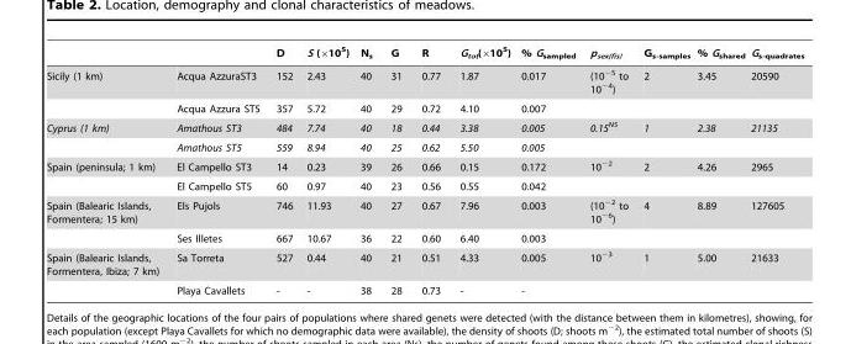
<table><thead><tr><td></td><td></td><td>D</td><td>S (×10<sup>5</sup>)</td><td>N<sub>s</sub></td><td>G</td><td>R</td><td>G<sub>tot</sub>(×10<sup>5</sup>)</td><td>% G<sub>sampled</sub></td><td>p<sub>sex(fis)</sub></td><td>G<sub>s-samples</sub></td><td>% G<sub>shared</sub></td><td>G<sub>s-quadrates</sub></td></tr></thead><tbody><tr><td rowspan="2">Sicily (1 km)</td><td>Acqua AzzuraST3</td><td>152</td><td>2.43</td><td>40</td><td>31</td><td>0.77</td><td>1.87</td><td>0.017</td><td>(10<sup>−5</sup> to 10<sup>−4</sup>)</td><td>2</td><td>3.45</td><td>20590</td></tr><tr><td>Acqua Azzura ST5</td><td>357</td><td>5.72</td><td>40</td><td>29</td><td>0.72</td><td>4.10</td><td>0.007</td><td></td><td></td><td></td><td></td></tr><tr><td rowspan="2">Cyprus (1 km)</td><td>Amathous ST3</td><td>484</td><td>7.74</td><td>40</td><td>18</td><td>0.44</td><td>3.38</td><td>0.005</td><td>0.15<sup>NS</sup></td><td>1</td><td>2.38</td><td>21135</td></tr><tr><td>Amathous ST5</td><td>559</td><td>8.94</td><td>40</td><td>25</td><td>0.62</td><td>5.50</td><td>0.005</td><td></td><td></td><td></td><td></td></tr><tr><td rowspan="2">Spain (peninsula; 1 km)</td><td>El Campello ST3</td><td>14</td><td>0.23</td><td>39</td><td>26</td><td>0.66</td><td>0.15</td><td>0.172</td><td>10<sup>−2</sup></td><td>2</td><td>4.26</td><td>2965</td></tr><tr><td>El Campello ST5</td><td>60</td><td>0.97</td><td>40</td><td>23</td><td>0.56</td><td>0.55</td><td>0.042</td><td></td><td></td><td></td><td></td></tr><tr><td rowspan="2">Spain (Balearic Islands, Formentera; 15 km)</td><td>Els Pujols</td><td>746</td><td>11.93</td><td>40</td><td>27</td><td>0.67</td><td>7.96</td><td>0.003</td><td>(10<sup>−2</sup> to 10<sup>−6</sup>)</td><td>4</td><td>8.89</td><td>127605</td></tr><tr><td>Ses Illetes</td><td>667</td><td>10.67</td><td>36</td><td>22</td><td>0.60</td><td>6.40</td><td>0.003</td><td></td><td></td><td></td><td></td></tr><tr><td rowspan="2">Spain (Balearic Islands, Formentera, Ibiza; 7 km)</td><td>Sa Torreta</td><td>527</td><td>0.44</td><td>40</td><td>21</td><td>0.51</td><td>4.33</td><td>0.005</td><td>10<sup>−3</sup></td><td>1</td><td>5.00</td><td>21633</td></tr><tr><td>Playa Cavallets</td><td>-</td><td>-</td><td>38</td><td>28</td><td>0.73</td><td>-</td><td>-</td><td></td><td></td><td></td><td></td></tr></tbody></table>